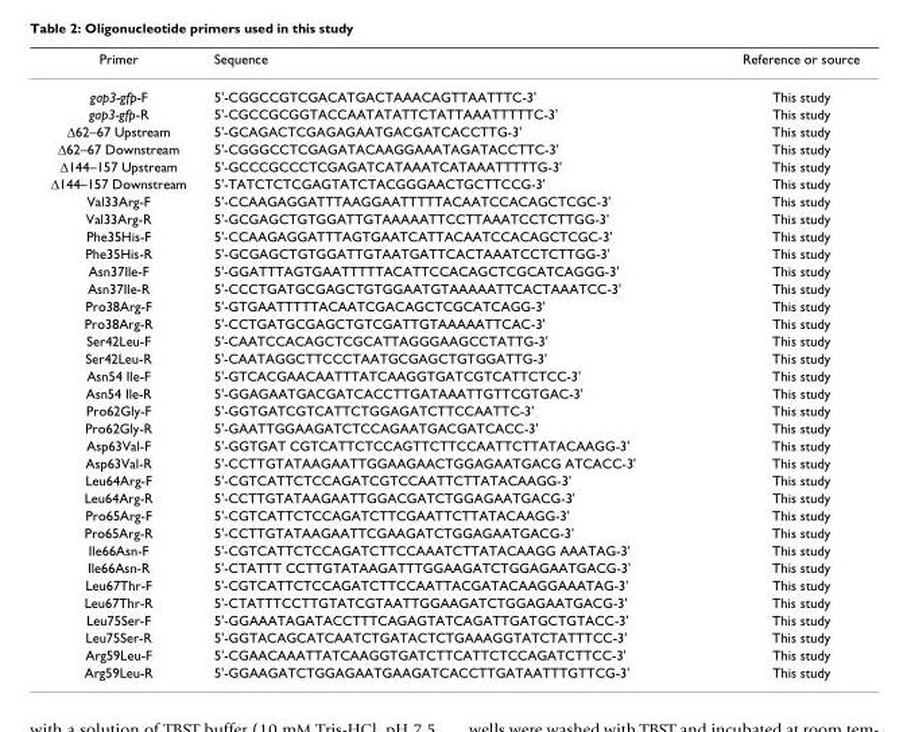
<table><thead><tr><td>Primer</td><td>Sequence</td><td>Reference or source</td></tr></thead><tbody><tr><td>gap3-gfp-F</td><td>5&#x27;-CGGCCGTCGACATGACTAAACAGTTAATTTC-3&#x27;</td><td>This study</td></tr><tr><td>gap3-gfp-R</td><td>5&#x27;-CGCCGCGGTACCAATATATTCTATTAAATTTTTC-3&#x27;</td><td>This study</td></tr><tr><td>∆62–67 Upstream</td><td>5&#x27;-GCAGACTCGAGAGAATGACGATCACCTTG-3&#x27;</td><td>This study</td></tr><tr><td>∆62–67 Downstream</td><td>5&#x27;-CGGGCCTCGAGATACAAGGAAATAGATACCTTC-3&#x27;</td><td>This study</td></tr><tr><td>∆144–157 Upstream</td><td>5&#x27;-GCCCGCCCTCGAGATCATAAATCATAAATTTTTG-3&#x27;</td><td>This study</td></tr><tr><td>∆144–157 Downstream</td><td>5&#x27;-TATCTCTCGAGTATCTACGGGAACTGCTTCCG-3&#x27;</td><td>This study</td></tr><tr><td>Val33Arg-F</td><td>5&#x27;-CCAAGAGGATTTAAGGAATTTTTACAATCCACAGCTCGC-3&#x27;</td><td>This study</td></tr><tr><td>Val33Arg-R</td><td>5&#x27;-GCGAGCTGTGGATTGTAAAAATTCCTTAAATCCTCTTGG-3&#x27;</td><td>This study</td></tr><tr><td>Phe35His-F</td><td>5&#x27;-CCAAGAGGATTTAGTGAATCATTACAATCCACAGCTCGC-3&#x27;</td><td>This study</td></tr><tr><td>Phe35His-R</td><td>5&#x27;-GCGAGCTGTGGATTGTAATGATTCACTAAATCCTCTTGG-3&#x27;</td><td>This study</td></tr><tr><td>Asn37Ile-F</td><td>5&#x27;-GGATTTAGTGAATTTTTACATTCCACAGCTCGCATCAGGG-3&#x27;</td><td>This study</td></tr><tr><td>Asn37Ile-R</td><td>5&#x27;-CCCTGATGCGAGCTGTGGAATGTAAAAATTCACTAAATCC-3&#x27;</td><td>This study</td></tr><tr><td>Pro38Arg-F</td><td>5&#x27;-GTGAATTTTTACAATCGACAGCTCGCATCAGG-3&#x27;</td><td>This study</td></tr><tr><td>Pro38Arg-R</td><td>5&#x27;-CCTGATGCGAGCTGTCGATTGTAAAAATTCAC-3&#x27;</td><td>This study</td></tr><tr><td>Ser42Leu-F</td><td>5&#x27;-CAATCCACAGCTCGCATTAGGGAAGCCTATTG-3&#x27;</td><td>This study</td></tr><tr><td>Ser42Leu-R</td><td>5&#x27;-CAATAGGCTTCCCTAATGCGAGCTGTGGATTG-3&#x27;</td><td>This study</td></tr><tr><td>Asn54 Ile-F</td><td>5&#x27;-GTCACGAACAATTTATCAAGGTGATCGTCATTCTCC-3&#x27;</td><td>This study</td></tr><tr><td>Asn54 Ile-R</td><td>5&#x27;-GGAGAATGACGATCACCTTGATAAATTGTTCGTGAC-3&#x27;</td><td>This study</td></tr><tr><td>Pro62Gly-F</td><td>5&#x27;-GGTGATCGTCATTCTGGAGATCTTCCAATTC-3&#x27;</td><td>This study</td></tr><tr><td>Pro62Gly-R</td><td>5&#x27;-GAATTGGAAGATCTCCAGAATGACGATCACC-3&#x27;</td><td>This study</td></tr><tr><td>Asp63Val-F</td><td>5&#x27;-GGTGAT CGTCATTCTCCAGTTCTTCCAATTCTTATACAAGG-3&#x27;</td><td>This study</td></tr><tr><td>Asp63Val-R</td><td>5&#x27;-CCTTGTATAAGAATTGGAAGAACTGGAGAATGACG ATCACC-3&#x27;</td><td>This study</td></tr><tr><td>Leu64Arg-F</td><td>5&#x27;-CGTCATTCTCCAGATCGTCCAATTCTTATACAAGG-3&#x27;</td><td>This study</td></tr><tr><td>Leu64Arg-R</td><td>5&#x27;-CCTTGTATAAGAATTGGACGATCTGGAGAATGACG-3&#x27;</td><td>This study</td></tr><tr><td>Pro65Arg-F</td><td>5&#x27;-CGTCATTCTCCAGATCTTCGAATTCTTATACAAGG-3&#x27;</td><td>This study</td></tr><tr><td>Pro65Arg-R</td><td>5&#x27;-CCTTGTATAAGAATTCGAAGATCTGGAGAATGACG-3&#x27;</td><td>This study</td></tr><tr><td>Ile66Asn-F</td><td>5&#x27;-CGTCATTCTCCAGATCTTCCAAATCTTATACAAGG AAATAG-3&#x27;</td><td>This study</td></tr><tr><td>Ile66Asn-R</td><td>5&#x27;-CTATTT CCTTGTATAAGATTTGGAAGATCTGGAGAATGACG-3&#x27;</td><td>This study</td></tr><tr><td>Leu67Thr-F</td><td>5&#x27;-CGTCATTCTCCAGATCTTCCAATTACGATACAAGGAAATAG-3&#x27;</td><td>This study</td></tr><tr><td>Leu67Thr-R</td><td>5&#x27;-CTATTTCCTTGTATCGTAATTGGAAGATCTGGAGAATGACG-3&#x27;</td><td>This study</td></tr><tr><td>Leu75Ser-F</td><td>5&#x27;-GGAAATAGATACCTTTCAGAGTATCAGATTGATGCTGTACC-3&#x27;</td><td>This study</td></tr><tr><td>Leu75Ser-R</td><td>5&#x27;-GGTACAGCATCAATCTGATACTCTGAAAGGTATCTATTTCC-3&#x27;</td><td>This study</td></tr><tr><td>Arg59Leu-F</td><td>5&#x27;-CGAACAAATTATCAAGGTGATCTTCATTCTCCAGATCTTCC-3&#x27;</td><td>This study</td></tr><tr><td>Arg59Leu-R</td><td>5&#x27;-GGAAGATCTGGAGAATGAAGATCACCTTGATAATTTGTTCG-3&#x27;</td><td>This study</td></tr></tbody></table>